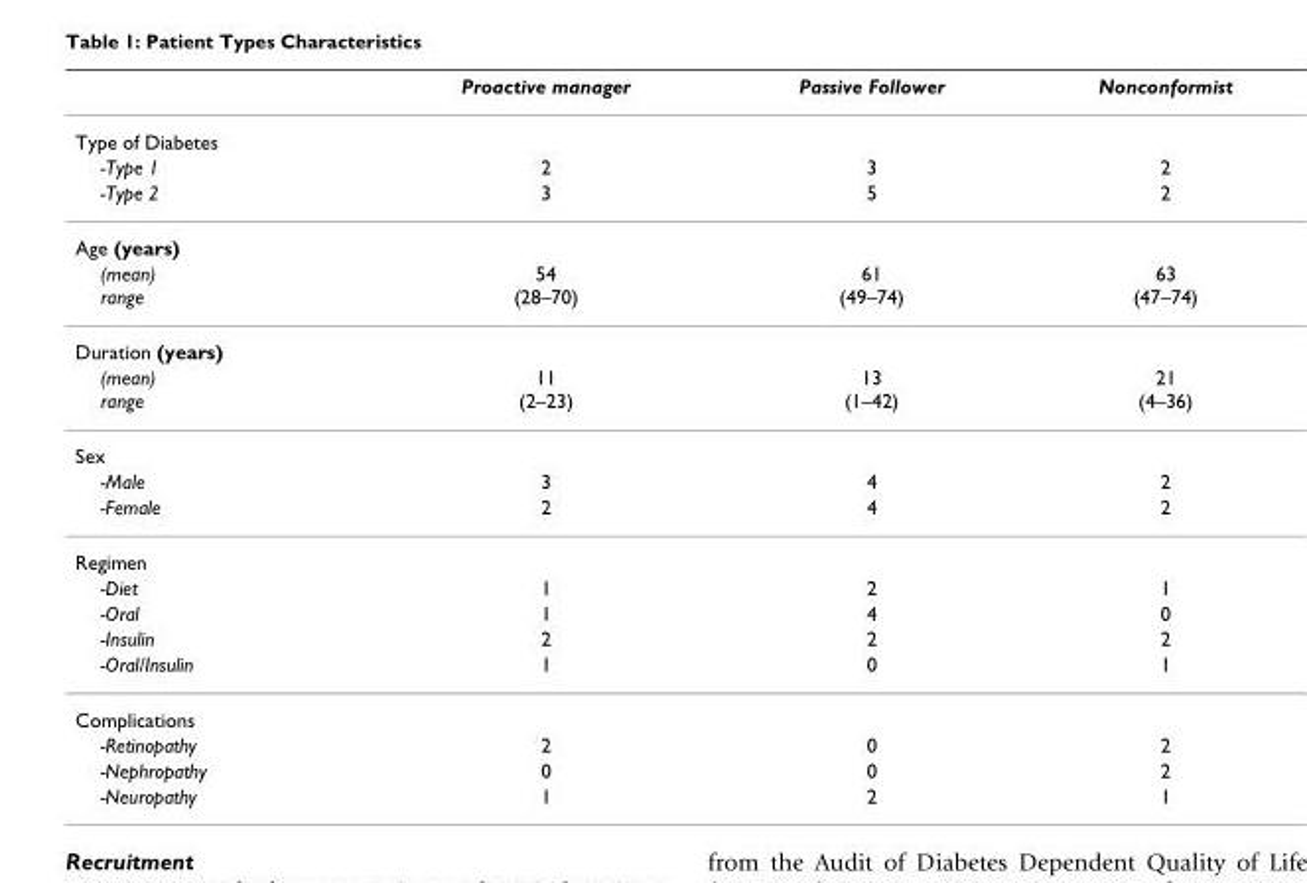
<table><thead><tr><td></td><td>Proactive manager</td><td>Passive Follower</td><td>Nonconformist</td></tr></thead><tbody><tr><td colspan="4">Type of Diabetes</td></tr><tr><td>-Type 1</td><td>2</td><td>3</td><td>2</td></tr><tr><td>-Type 2</td><td>3</td><td>5</td><td>2</td></tr><tr><td colspan="4">Age (years)</td></tr><tr><td>(mean) range</td><td>54 (28–70)</td><td>61 (49–74)</td><td>63 (47–74)</td></tr><tr><td colspan="4">Duration (years)</td></tr><tr><td>(mean) range</td><td>11 (2–23)</td><td>13 (1–42)</td><td>21 (4–36)</td></tr><tr><td colspan="4">Sex</td></tr><tr><td>-Male</td><td>3</td><td>4</td><td>2</td></tr><tr><td>-Female</td><td>2</td><td>4</td><td>2</td></tr><tr><td colspan="4">Regimen</td></tr><tr><td>-Diet</td><td>1</td><td>2</td><td>1</td></tr><tr><td>-Oral</td><td>1</td><td>4</td><td>0</td></tr><tr><td>-Insulin</td><td>2</td><td>2</td><td>2</td></tr><tr><td>-Oral/Insulin</td><td>1</td><td>0</td><td>1</td></tr><tr><td colspan="4">Complications</td></tr><tr><td>-Retinopathy</td><td>2</td><td>0</td><td>2</td></tr><tr><td>-Nephropathy</td><td>0</td><td>0</td><td>2</td></tr><tr><td>-Neuropathy</td><td>1</td><td>2</td><td>1</td></tr></tbody></table>